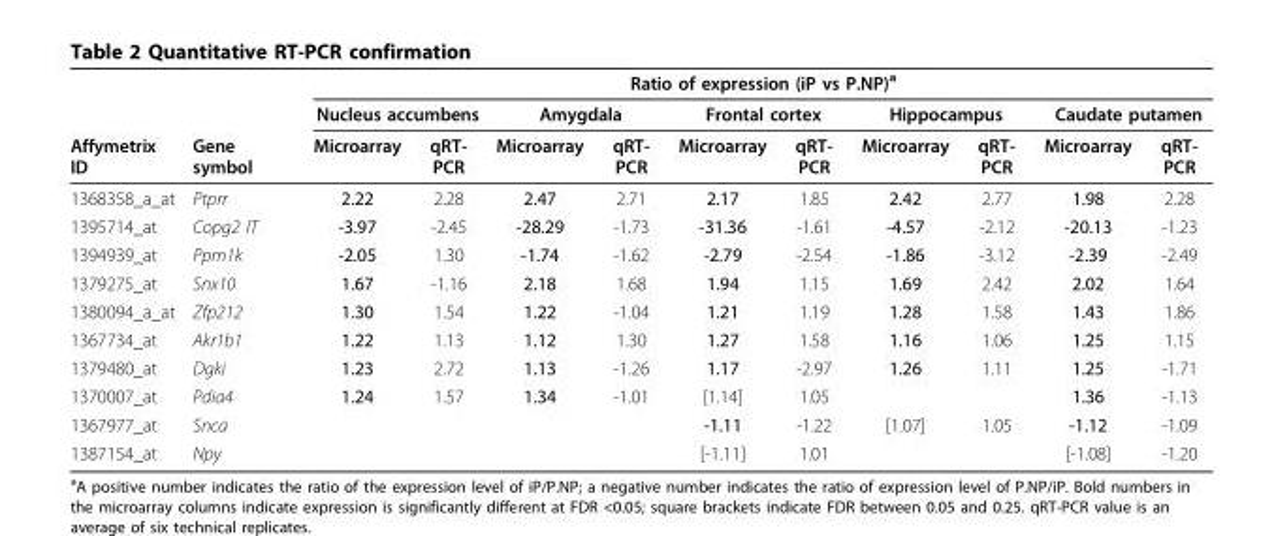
<table><thead><tr><td rowspan="3">Affymetrix ID</td><td rowspan="3">Gene symbol</td><td colspan="10">Ratio of expression (iP vs P.NP)<sup>a</sup></td></tr><tr><td colspan="2">Nucleus accumbens</td><td colspan="2">Amygdala</td><td colspan="2">Frontal cortex</td><td colspan="2">Hippocampus</td><td colspan="2">Caudate putamen</td></tr><tr><td>Microarray</td><td>qRT- PCR</td><td>Microarray</td><td>qRT- PCR</td><td>Microarray</td><td>qRT- PCR</td><td>Microarray</td><td>qRT- PCR</td><td>Microarray</td><td>qRT- PCR</td></tr></thead><tbody><tr><td>1368358_a_at</td><td>Ptprr</td><td>2.22</td><td>2.28</td><td>2.47</td><td>2.71</td><td>2.17</td><td>1.85</td><td>2.42</td><td>2.77</td><td>1.98</td><td>2.28</td></tr><tr><td>1395714_at</td><td>Copg2 IT</td><td>-3.97</td><td>-2.45</td><td>-28.29</td><td>-1.73</td><td>-31.36</td><td>-1.61</td><td>-4.57</td><td>-2.12</td><td>-20.13</td><td>-1.23</td></tr><tr><td>1394939_at</td><td>Ppm1k</td><td>-2.05</td><td>1.30</td><td>-1.74</td><td>-1.62</td><td>-2.79</td><td>-2.54</td><td>-1.86</td><td>-3.12</td><td>-2.39</td><td>-2.49</td></tr><tr><td>1379275_at</td><td>Snx10</td><td>1.67</td><td>-1.16</td><td>2.18</td><td>1.68</td><td>1.94</td><td>1.15</td><td>1.69</td><td>2.42</td><td>2.02</td><td>1.64</td></tr><tr><td>1380094_a_at</td><td>Zfp212</td><td>1.30</td><td>1.54</td><td>1.22</td><td>-1.04</td><td>1.21</td><td>1.19</td><td>1.28</td><td>1.58</td><td>1.43</td><td>1.86</td></tr><tr><td>1367734_at</td><td>Akr1b1</td><td>1.22</td><td>1.13</td><td>1.12</td><td>1.30</td><td>1.27</td><td>1.58</td><td>1.16</td><td>1.06</td><td>1.25</td><td>1.15</td></tr><tr><td>1379480_at</td><td>Dgki</td><td>1.23</td><td>2.72</td><td>1.13</td><td>-1.26</td><td>1.17</td><td>-2.97</td><td>1.26</td><td>1.11</td><td>1.25</td><td>-1.71</td></tr><tr><td>1370007_at</td><td>Pdia4</td><td>1.24</td><td>1.57</td><td>1.34</td><td>-1.01</td><td>[1.14]</td><td>1.05</td><td></td><td></td><td>1.36</td><td>-1.13</td></tr><tr><td>1367977_at</td><td>Snca</td><td></td><td></td><td></td><td></td><td>-1.11</td><td>-1.22</td><td>[1.07]</td><td>1.05</td><td>-1.12</td><td>-1.09</td></tr><tr><td>1387154_at</td><td>Npy</td><td></td><td></td><td></td><td></td><td>[-1.11]</td><td>1.01</td><td></td><td></td><td>[-1.08]</td><td>-1.20</td></tr></tbody></table>